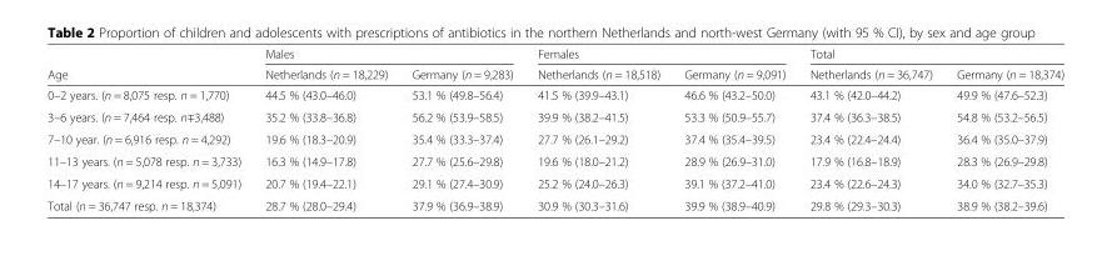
<table><thead><tr><td rowspan="2">Age</td><td colspan="2">Males</td><td colspan="2">Females</td><td colspan="2">Total</td></tr><tr><td>Netherlands (n = 18,229)</td><td>Germany (n = 9,283)</td><td>Netherlands (n = 18,518)</td><td>Germany (n = 9,091)</td><td>Netherlands (n = 36,747)</td><td>Germany (n = 18,374)</td></tr></thead><tbody><tr><td>0–2 years. (n = 8,075 resp. n = 1,770)</td><td>44.5 % (43.0–46.0)</td><td>53.1 % (49.8–56.4)</td><td>41.5 % (39.9–43.1)</td><td>46.6 % (43.2–50.0)</td><td>43.1 % (42.0–44.2)</td><td>49.9 % (47.6–52.3)</td></tr><tr><td>3–6 years. (n = 7,464 resp. n∓3,488)</td><td>35.2 % (33.8–36.8)</td><td>56.2 % (53.9–58.5)</td><td>39.9 % (38.2–41.5)</td><td>53.3 % (50.9–55.7)</td><td>37.4 % (36.3–38.5)</td><td>54.8 % (53.2–56.5)</td></tr><tr><td>7–10 year. (n = 6,916 resp. n = 4,292)</td><td>19.6 % (18.3–20.9)</td><td>35.4 % (33.3–37.4)</td><td>27.7 % (26.1–29.2)</td><td>37.4 % (35.4–39.5)</td><td>23.4 % (22.4–24.4)</td><td>36.4 % (35.0–37.9)</td></tr><tr><td>11–13 years. (n = 5,078 resp. n = 3,733)</td><td>16.3 % (14.9–17.8)</td><td>27.7 % (25.6–29.8)</td><td>19.6 % (18.0–21.2)</td><td>28.9 % (26.9–31.0)</td><td>17.9 % (16.8–18.9)</td><td>28.3 % (26.9–29.8)</td></tr><tr><td>14–17 years. (n = 9,214 resp. n = 5,091)</td><td>20.7 % (19.4–22.1)</td><td>29.1 % (27.4–30.9)</td><td>25.2 % (24.0–26.3)</td><td>39.1 % (37.2–41.0)</td><td>23.4 % (22.6–24.3)</td><td>34.0 % (32.7–35.3)</td></tr><tr><td>Total (n = 36,747 resp. n = 18,374)</td><td>28.7 % (28.0–29.4)</td><td>37.9 % (36.9–38.9)</td><td>30.9 % (30.3–31.6)</td><td>39.9 % (38.9–40.9)</td><td>29.8 % (29.3–30.3)</td><td>38.9 % (38.2–39.6)</td></tr></tbody></table>